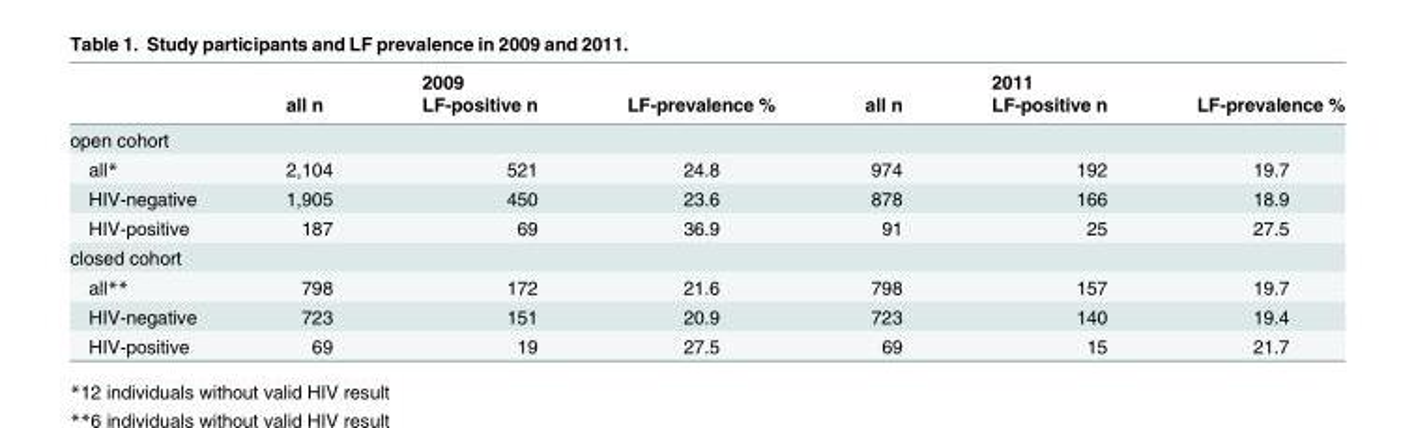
<table><thead><tr><td rowspan="2"></td><td rowspan="2">all n</td><td rowspan="2">2009 LF-positive n</td><td rowspan="2">LF-prevalence %</td><td rowspan="2">all n</td><td rowspan="2">2011 LF-positive n</td><td rowspan="2">LF-prevalence %</td></tr><tr></tr></thead><tbody><tr><td colspan="7">open cohort</td></tr><tr><td>all*</td><td>2,104</td><td>521</td><td>24.8</td><td>974</td><td>192</td><td>19.7</td></tr><tr><td>HIV-negative</td><td>1,905</td><td>450</td><td>23.6</td><td>878</td><td>166</td><td>18.9</td></tr><tr><td>HIV-positive</td><td>187</td><td>69</td><td>36.9</td><td>91</td><td>25</td><td>27.5</td></tr><tr><td colspan="7">closed cohort</td></tr><tr><td>all**</td><td>798</td><td>172</td><td>21.6</td><td>798</td><td>157</td><td>19.7</td></tr><tr><td>HIV-negative</td><td>723</td><td>151</td><td>20.9</td><td>723</td><td>140</td><td>19.4</td></tr><tr><td>HIV-positive</td><td>69</td><td>19</td><td>27.5</td><td>69</td><td>15</td><td>21.7</td></tr></tbody></table>